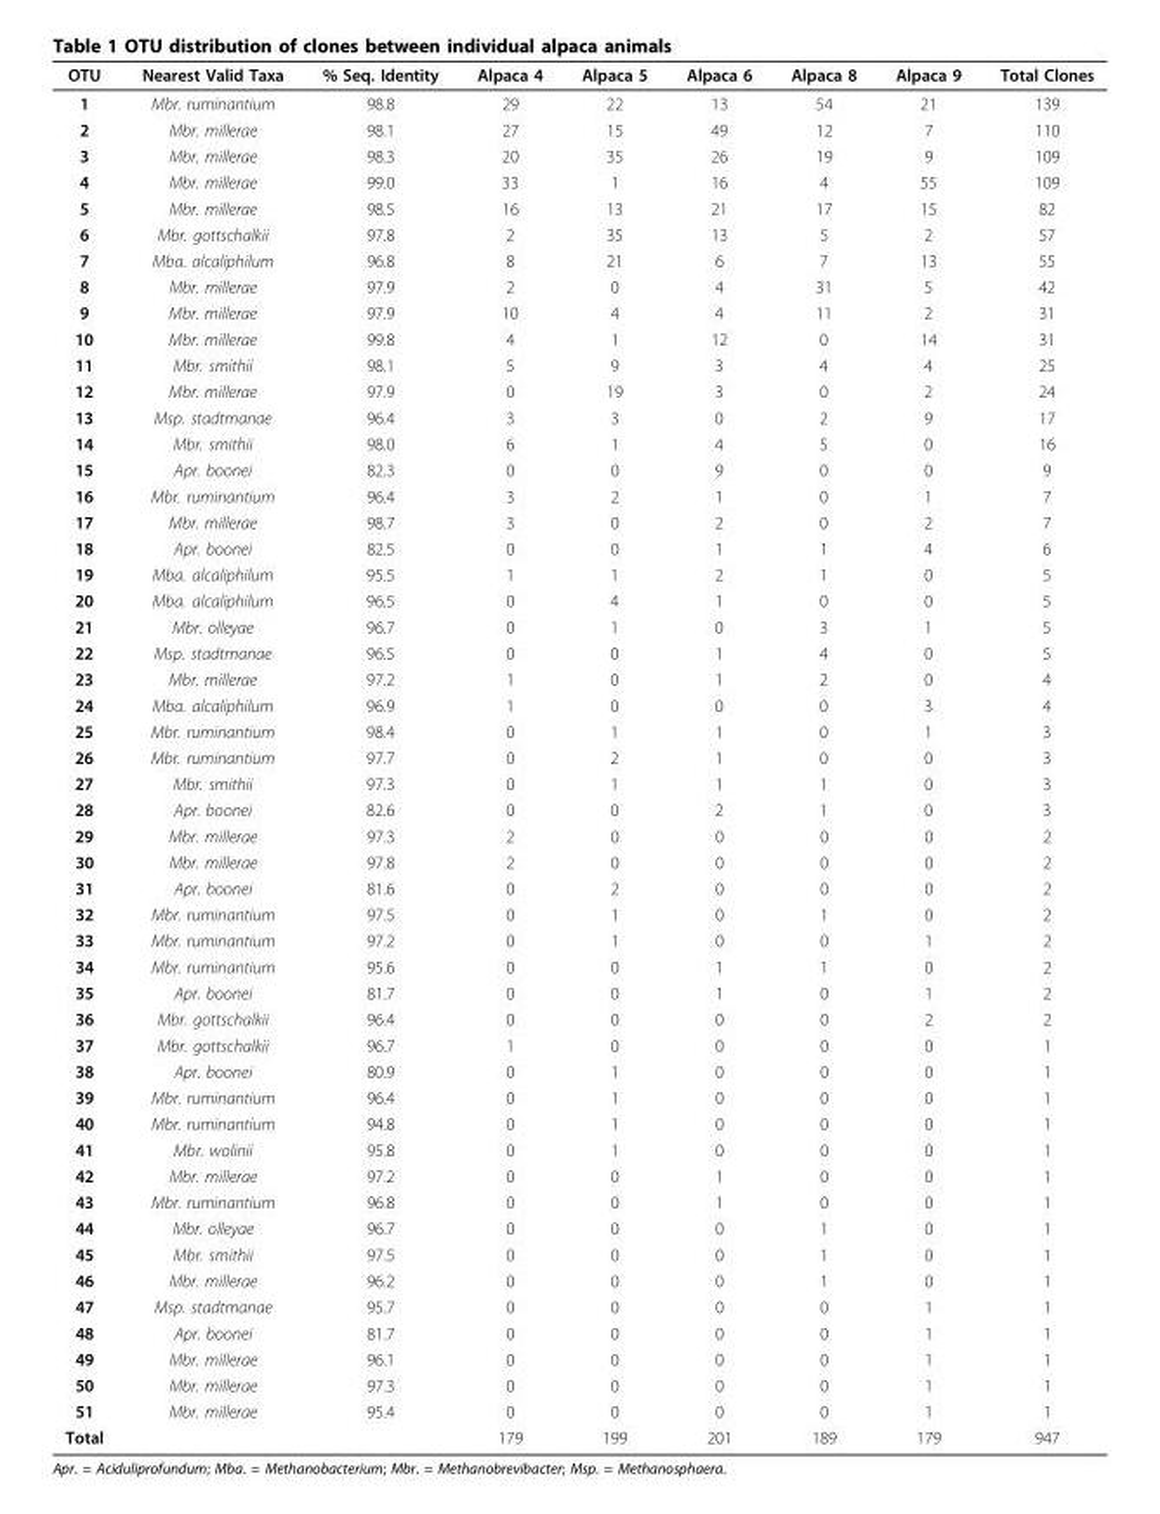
<table><thead><tr><td>OTU</td><td>Nearest Valid Taxa</td><td>% Seq. Identity</td><td>Alpaca 4</td><td>Alpaca 5</td><td>Alpaca 6</td><td>Alpaca 8</td><td>Alpaca 9</td><td>Total Clones</td></tr></thead><tbody><tr><td>1</td><td>Mbr. ruminantium</td><td>98.8</td><td>29</td><td>22</td><td>13</td><td>54</td><td>21</td><td>139</td></tr><tr><td>2</td><td>Mbr. millerae</td><td>98.1</td><td>27</td><td>15</td><td>49</td><td>12</td><td>7</td><td>110</td></tr><tr><td>3</td><td>Mbr. millerae</td><td>98.3</td><td>20</td><td>35</td><td>26</td><td>19</td><td>9</td><td>109</td></tr><tr><td>4</td><td>Mbr. millerae</td><td>99.0</td><td>33</td><td>1</td><td>16</td><td>4</td><td>55</td><td>109</td></tr><tr><td>5</td><td>Mbr. millerae</td><td>98.5</td><td>16</td><td>13</td><td>21</td><td>17</td><td>15</td><td>82</td></tr><tr><td>6</td><td>Mbr. gottschalkii</td><td>97.8</td><td>2</td><td>35</td><td>13</td><td>5</td><td>2</td><td>57</td></tr><tr><td>7</td><td>Mba. alcaliphilum</td><td>96.8</td><td>8</td><td>21</td><td>6</td><td>7</td><td>13</td><td>55</td></tr><tr><td>8</td><td>Mbr. millerae</td><td>97.9</td><td>2</td><td>0</td><td>4</td><td>31</td><td>5</td><td>42</td></tr><tr><td>9</td><td>Mbr. millerae</td><td>97.9</td><td>10</td><td>4</td><td>4</td><td>11</td><td>2</td><td>31</td></tr><tr><td>10</td><td>Mbr. millerae</td><td>99.8</td><td>4</td><td>1</td><td>12</td><td>0</td><td>14</td><td>31</td></tr><tr><td>11</td><td>Mbr. smithii</td><td>98.1</td><td>5</td><td>9</td><td>3</td><td>4</td><td>4</td><td>25</td></tr><tr><td>12</td><td>Mbr. millerae</td><td>97.9</td><td>0</td><td>19</td><td>3</td><td>0</td><td>2</td><td>24</td></tr><tr><td>13</td><td>Msp. stadtmanae</td><td>96.4</td><td>3</td><td>3</td><td>0</td><td>2</td><td>9</td><td>17</td></tr><tr><td>14</td><td>Mbr. smithii</td><td>98.0</td><td>6</td><td>1</td><td>4</td><td>5</td><td>0</td><td>16</td></tr><tr><td>15</td><td>Apr. boonei</td><td>82.3</td><td>0</td><td>0</td><td>9</td><td>0</td><td>0</td><td>9</td></tr><tr><td>16</td><td>Mbr. ruminantium</td><td>96.4</td><td>3</td><td>2</td><td>1</td><td>0</td><td>1</td><td>7</td></tr><tr><td>17</td><td>Mbr. millerae</td><td>98.7</td><td>3</td><td>0</td><td>2</td><td>0</td><td>2</td><td>7</td></tr><tr><td>18</td><td>Apr. boonei</td><td>82.5</td><td>0</td><td>0</td><td>1</td><td>1</td><td>4</td><td>6</td></tr><tr><td>19</td><td>Mba. alcaliphilum</td><td>95.5</td><td>1</td><td>1</td><td>2</td><td>1</td><td>0</td><td>5</td></tr><tr><td>20</td><td>Mba. alcaliphilum</td><td>96.5</td><td>0</td><td>4</td><td>1</td><td>0</td><td>0</td><td>5</td></tr><tr><td>21</td><td>Mbr. olleyae</td><td>96.7</td><td>0</td><td>1</td><td>0</td><td>3</td><td>1</td><td>5</td></tr><tr><td>22</td><td>Msp. stadtmanae</td><td>96.5</td><td>0</td><td>0</td><td>1</td><td>4</td><td>0</td><td>5</td></tr><tr><td>23</td><td>Mbr. millerae</td><td>97.2</td><td>1</td><td>0</td><td>1</td><td>2</td><td>0</td><td>4</td></tr><tr><td>24</td><td>Mba. alcaliphilum</td><td>96.9</td><td>1</td><td>0</td><td>0</td><td>0</td><td>3</td><td>4</td></tr><tr><td>25</td><td>Mbr. ruminantium</td><td>98.4</td><td>0</td><td>1</td><td>1</td><td>0</td><td>1</td><td>3</td></tr><tr><td>26</td><td>Mbr. ruminantium</td><td>97.7</td><td>0</td><td>2</td><td>1</td><td>0</td><td>0</td><td>3</td></tr><tr><td>27</td><td>Mbr. smithii</td><td>97.3</td><td>0</td><td>1</td><td>1</td><td>1</td><td>0</td><td>3</td></tr><tr><td>28</td><td>Apr. boonei</td><td>82.6</td><td>0</td><td>0</td><td>2</td><td>1</td><td>0</td><td>3</td></tr><tr><td>29</td><td>Mbr. millerae</td><td>97.3</td><td>2</td><td>0</td><td>0</td><td>0</td><td>0</td><td>2</td></tr><tr><td>30</td><td>Mbr. millerae</td><td>97.8</td><td>2</td><td>0</td><td>0</td><td>0</td><td>0</td><td>2</td></tr><tr><td>31</td><td>Apr. boonei</td><td>81.6</td><td>0</td><td>2</td><td>0</td><td>0</td><td>0</td><td>2</td></tr><tr><td>32</td><td>Mbr. ruminantium</td><td>97.5</td><td>0</td><td>1</td><td>0</td><td>1</td><td>0</td><td>2</td></tr><tr><td>33</td><td>Mbr. ruminantium</td><td>97.2</td><td>0</td><td>1</td><td>0</td><td>0</td><td>1</td><td>2</td></tr><tr><td>34</td><td>Mbr. ruminantium</td><td>95.6</td><td>0</td><td>0</td><td>1</td><td>1</td><td>0</td><td>2</td></tr><tr><td>35</td><td>Apr. boonei</td><td>81.7</td><td>0</td><td>0</td><td>1</td><td>0</td><td>1</td><td>2</td></tr><tr><td>36</td><td>Mbr. gottschalkii</td><td>96.4</td><td>0</td><td>0</td><td>0</td><td>0</td><td>2</td><td>2</td></tr><tr><td>37</td><td>Mbr. gottschalkii</td><td>96.7</td><td>1</td><td>0</td><td>0</td><td>0</td><td>0</td><td>1</td></tr><tr><td>38</td><td>Apr. boonei</td><td>80.9</td><td>0</td><td>1</td><td>0</td><td>0</td><td>0</td><td>1</td></tr><tr><td>39</td><td>Mbr. ruminantium</td><td>96.4</td><td>0</td><td>1</td><td>0</td><td>0</td><td>0</td><td>1</td></tr><tr><td>40</td><td>Mbr. ruminantium</td><td>94.8</td><td>0</td><td>1</td><td>0</td><td>0</td><td>0</td><td>1</td></tr><tr><td>41</td><td>Mbr. wolinii</td><td>95.8</td><td>0</td><td>1</td><td>0</td><td>0</td><td>0</td><td>1</td></tr><tr><td>42</td><td>Mbr. millerae</td><td>97.2</td><td>0</td><td>0</td><td>1</td><td>0</td><td>0</td><td>1</td></tr><tr><td>43</td><td>Mbr. ruminantium</td><td>96.8</td><td>0</td><td>0</td><td>1</td><td>0</td><td>0</td><td>1</td></tr><tr><td>44</td><td>Mbr. olleyae</td><td>96.7</td><td>0</td><td>0</td><td>0</td><td>1</td><td>0</td><td>1</td></tr><tr><td>45</td><td>Mbr. smithii</td><td>97.5</td><td>0</td><td>0</td><td>0</td><td>1</td><td>0</td><td>1</td></tr><tr><td>46</td><td>Mbr. millerae</td><td>96.2</td><td>0</td><td>0</td><td>0</td><td>1</td><td>0</td><td>1</td></tr><tr><td>47</td><td>Msp. stadtmanae</td><td>95.7</td><td>0</td><td>0</td><td>0</td><td>0</td><td>1</td><td>1</td></tr><tr><td>48</td><td>Apr. boonei</td><td>81.7</td><td>0</td><td>0</td><td>0</td><td>0</td><td>1</td><td>1</td></tr><tr><td>49</td><td>Mbr. millerae</td><td>96.1</td><td>0</td><td>0</td><td>0</td><td>0</td><td>1</td><td>1</td></tr><tr><td>50</td><td>Mbr. millerae</td><td>97.3</td><td>0</td><td>0</td><td>0</td><td>0</td><td>1</td><td>1</td></tr><tr><td>51</td><td>Mbr. millerae</td><td>95.4</td><td>0</td><td>0</td><td>0</td><td>0</td><td>1</td><td>1</td></tr><tr><td>Total</td><td></td><td></td><td>179</td><td>199</td><td>201</td><td>189</td><td>179</td><td>947</td></tr></tbody></table>